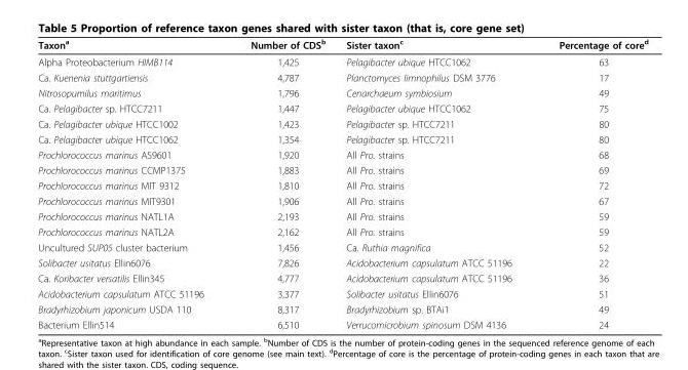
<table><thead><tr><td>Taxon<sup>a</sup></td><td>Number of CDS<sup>b</sup></td><td>Sister taxon<sup>c</sup></td><td>Percentage of core<sup>d</sup></td></tr></thead><tbody><tr><td>Alpha Proteobacterium HIMB114</td><td>1,425</td><td>Pelagibacter ubique HTCC1062</td><td>63</td></tr><tr><td>Ca. Kuenenia stuttgartiensis</td><td>4,787</td><td>Planctomyces limnophilus DSM 3776</td><td>17</td></tr><tr><td>Nitrosopumilus maritimus</td><td>1,796</td><td>Cenarchaeum symbiosium</td><td>49</td></tr><tr><td>Ca. Pelagibacter sp. HTCC7211</td><td>1,447</td><td>Pelagibacter ubique HTCC1062</td><td>75</td></tr><tr><td>Ca. Pelagibacter ubique HTCC1002</td><td>1,423</td><td>Pelagibacter sp. HTCC7211</td><td>80</td></tr><tr><td>Ca. Pelagibacter ubique HTCC1062</td><td>1,354</td><td>Pelagibacter sp. HTCC7211</td><td>80</td></tr><tr><td>Prochlorococcus marinus AS9601</td><td>1,920</td><td>All Pro. strains</td><td>68</td></tr><tr><td>Prochlorococcus marinus CCMP1375</td><td>1,883</td><td>All Pro. strains</td><td>69</td></tr><tr><td>Prochlorococcus marinus MIT 9312</td><td>1,810</td><td>All Pro. strains</td><td>72</td></tr><tr><td>Prochlorococcus marinus MIT9301</td><td>1,906</td><td>All Pro. strains</td><td>67</td></tr><tr><td>Prochlorococcus marinus NATL1A</td><td>2,193</td><td>All Pro. strains</td><td>59</td></tr><tr><td>Prochlorococcus marinus NATL2A</td><td>2,162</td><td>All Pro. strains</td><td>59</td></tr><tr><td>Uncultured SUP05 cluster bacterium</td><td>1,456</td><td>Ca. Ruthia magnifica</td><td>52</td></tr><tr><td>Solibacter usitatus Ellin6076</td><td>7,826</td><td>Acidobacterium capsulatum ATCC 51196</td><td>22</td></tr><tr><td>Ca. Koribacter versatilis Ellin345</td><td>4,777</td><td>Acidobacterium capsulatum ATCC 51196</td><td>36</td></tr><tr><td>Acidobacterium capsulatum ATCC 51196</td><td>3,377</td><td>Solibacter usitatus Ellin6076</td><td>51</td></tr><tr><td>Bradyrhizobium japonicum USDA 110</td><td>8,317</td><td>Bradyrhizobium sp. BTAi1</td><td>49</td></tr><tr><td>Bacterium Ellin514</td><td>6,510</td><td>Verrucomicrobium spinosum DSM 4136</td><td>24</td></tr></tbody></table>